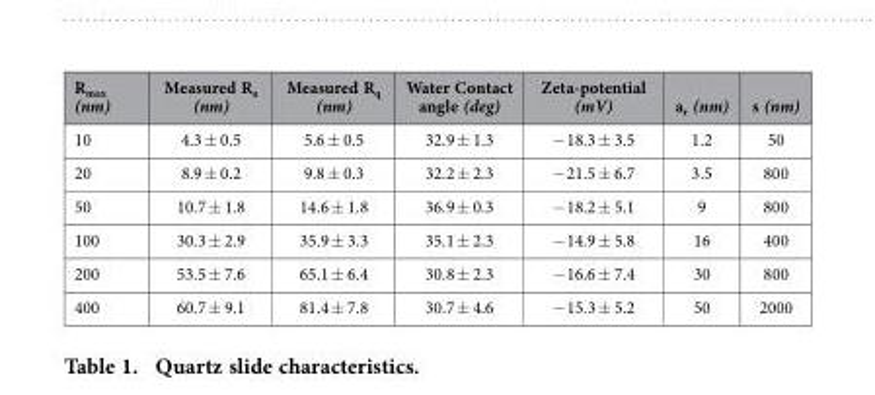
<table><thead><tr><td>R<sub>max</sub> (nm)</td><td>Measured R<sub>a</sub> (nm)</td><td>Measured R<sub>q</sub> (nm)</td><td>Water Contact angle (deg)</td><td>Zeta-potential (mV)</td><td>a<sub>r</sub> (nm)</td><td>s (nm)</td></tr></thead><tbody><tr><td>10</td><td>4.3 ± 0.5</td><td>5.6 ± 0.5</td><td>32.9 ± 1.3</td><td>− 18.3 ± 3.5</td><td>1.2</td><td>50</td></tr><tr><td>20</td><td>8.9 ± 0.2</td><td>9.8 ± 0.3</td><td>32.2 ± 2.3</td><td>− 21.5 ± 6.7</td><td>3.5</td><td>800</td></tr><tr><td>50</td><td>10.7 ± 1.8</td><td>14.6 ± 1.8</td><td>36.9 ± 0.3</td><td>− 18.2 ± 5.1</td><td>9</td><td>800</td></tr><tr><td>100</td><td>30.3 ± 2.9</td><td>35.9 ± 3.3</td><td>35.1 ± 2.3</td><td>− 14.9 ± 5.8</td><td>16</td><td>400</td></tr><tr><td>200</td><td>53.5 ± 7.6</td><td>65.1 ± 6.4</td><td>30.8 ± 2.3</td><td>− 16.6 ± 7.4</td><td>30</td><td>800</td></tr><tr><td>400</td><td>60.7 ± 9.1</td><td>81.4 ± 7.8</td><td>30.7 ± 4.6</td><td>− 15.3 ± 5.2</td><td>50</td><td>2000</td></tr></tbody></table>